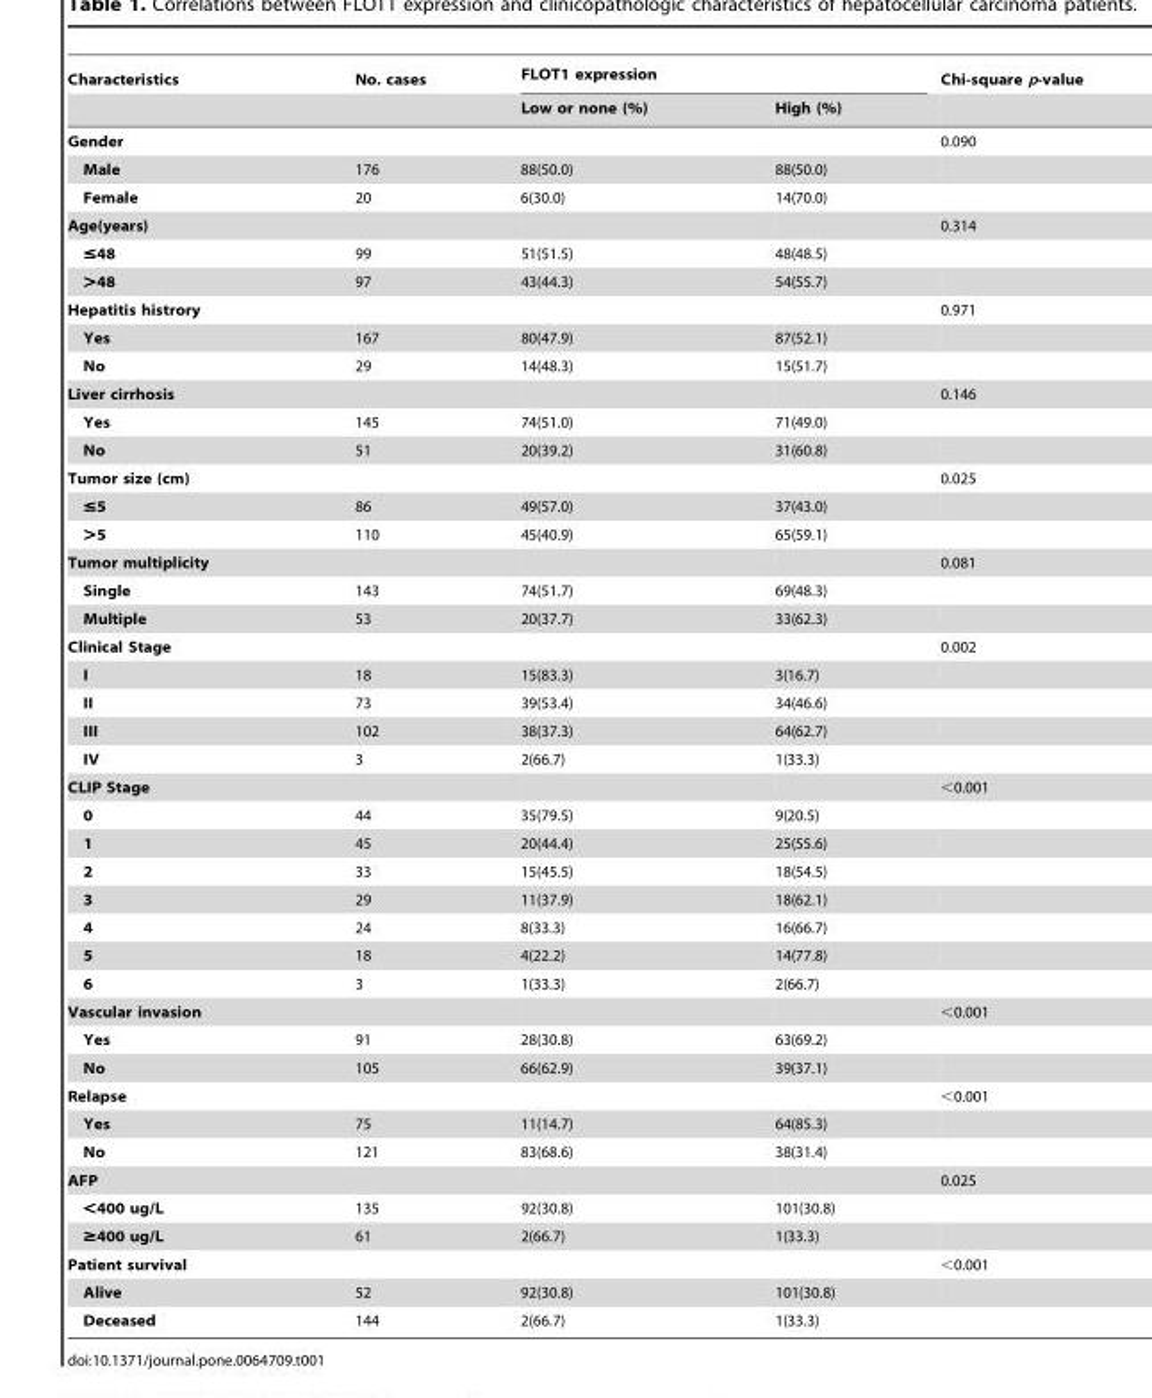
<table><thead><tr><td rowspan="2">Characteristics</td><td rowspan="2">No. cases</td><td colspan="2">FLOT1 expression</td><td rowspan="2">Chi-square p-value</td></tr><tr><td>Low or none (%)</td><td>High (%)</td></tr></thead><tbody><tr><td>Gender</td><td></td><td></td><td></td><td>0.090</td></tr><tr><td>Male</td><td>176</td><td>88(50.0)</td><td>88(50.0)</td><td></td></tr><tr><td>Female</td><td>20</td><td>6(30.0)</td><td>14(70.0)</td><td></td></tr><tr><td>Age(years)</td><td></td><td></td><td></td><td>0.314</td></tr><tr><td>≤48</td><td>99</td><td>51(51.5)</td><td>48(48.5)</td><td></td></tr><tr><td>&gt;48</td><td>97</td><td>43(44.3)</td><td>54(55.7)</td><td></td></tr><tr><td>Hepatitis histrory</td><td></td><td></td><td></td><td>0.971</td></tr><tr><td>Yes</td><td>167</td><td>80(47.9)</td><td>87(52.1)</td><td></td></tr><tr><td>No</td><td>29</td><td>14(48.3)</td><td>15(51.7)</td><td></td></tr><tr><td>Liver cirrhosis</td><td></td><td></td><td></td><td>0.146</td></tr><tr><td>Yes</td><td>145</td><td>74(51.0)</td><td>71(49.0)</td><td></td></tr><tr><td>No</td><td>51</td><td>20(39.2)</td><td>31(60.8)</td><td></td></tr><tr><td>Tumor size (cm)</td><td></td><td></td><td></td><td>0.025</td></tr><tr><td>≤5</td><td>86</td><td>49(57.0)</td><td>37(43.0)</td><td></td></tr><tr><td>&gt;5</td><td>110</td><td>45(40.9)</td><td>65(59.1)</td><td></td></tr><tr><td>Tumor multiplicity</td><td></td><td></td><td></td><td>0.081</td></tr><tr><td>Single</td><td>143</td><td>74(51.7)</td><td>69(48.3)</td><td></td></tr><tr><td>Multiple</td><td>53</td><td>20(37.7)</td><td>33(62.3)</td><td></td></tr><tr><td>Clinical Stage</td><td></td><td></td><td></td><td>0.002</td></tr><tr><td>I</td><td>18</td><td>15(83.3)</td><td>3(16.7)</td><td></td></tr><tr><td>II</td><td>73</td><td>39(53.4)</td><td>34(46.6)</td><td></td></tr><tr><td>III</td><td>102</td><td>38(37.3)</td><td>64(62.7)</td><td></td></tr><tr><td>IV</td><td>3</td><td>2(66.7)</td><td>1(33.3)</td><td></td></tr><tr><td>CLIP Stage</td><td></td><td></td><td></td><td>&lt;0.001</td></tr><tr><td>0</td><td>44</td><td>35(79.5)</td><td>9(20.5)</td><td></td></tr><tr><td>1</td><td>45</td><td>20(44.4)</td><td>25(55.6)</td><td></td></tr><tr><td>2</td><td>33</td><td>15(45.5)</td><td>18(54.5)</td><td></td></tr><tr><td>3</td><td>29</td><td>11(37.9)</td><td>18(62.1)</td><td></td></tr><tr><td>4</td><td>24</td><td>8(33.3)</td><td>16(66.7)</td><td></td></tr><tr><td>5</td><td>18</td><td>4(22.2)</td><td>14(77.8)</td><td></td></tr><tr><td>6</td><td>3</td><td>1(33.3)</td><td>2(66.7)</td><td></td></tr><tr><td>Vascular invasion</td><td></td><td></td><td></td><td>&lt;0.001</td></tr><tr><td>Yes</td><td>91</td><td>28(30.8)</td><td>63(69.2)</td><td></td></tr><tr><td>No</td><td>105</td><td>66(62.9)</td><td>39(37.1)</td><td></td></tr><tr><td>Relapse</td><td></td><td></td><td></td><td>&lt;0.001</td></tr><tr><td>Yes</td><td>75</td><td>11(14.7)</td><td>64(85.3)</td><td></td></tr><tr><td>No</td><td>121</td><td>83(68.6)</td><td>38(31.4)</td><td></td></tr><tr><td>AFP</td><td></td><td></td><td></td><td>0.025</td></tr><tr><td>&lt;400 ug/L</td><td>135</td><td>92(30.8)</td><td>101(30.8)</td><td></td></tr><tr><td>≥400 ug/L</td><td>61</td><td>2(66.7)</td><td>1(33.3)</td><td></td></tr><tr><td>Patient survival</td><td></td><td></td><td></td><td>&lt;0.001</td></tr><tr><td>Alive</td><td>52</td><td>92(30.8)</td><td>101(30.8)</td><td></td></tr><tr><td>Deceased</td><td>144</td><td>2(66.7)</td><td>1(33.3)</td><td></td></tr></tbody></table>